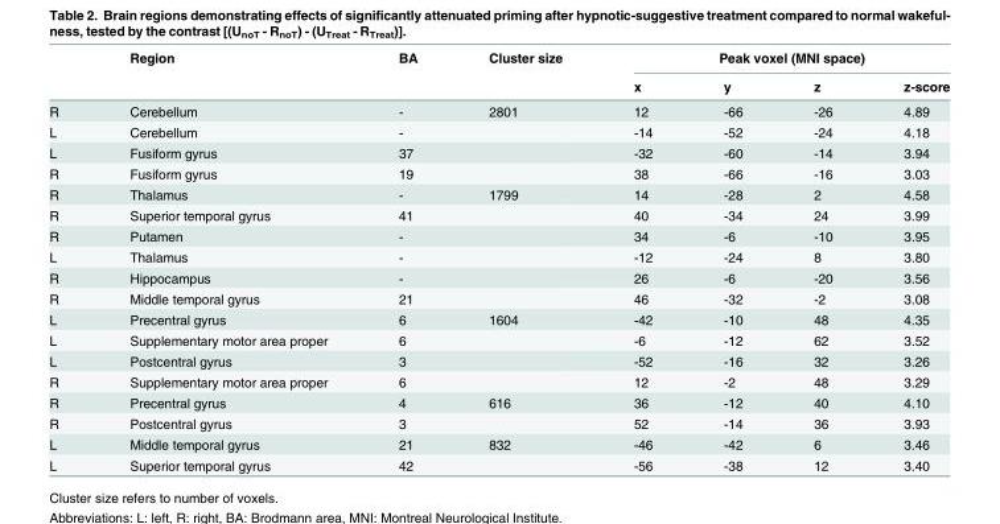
<table><thead><tr><td rowspan="2"></td><td rowspan="2">Region</td><td rowspan="2">BA</td><td rowspan="2">Cluster size</td><td colspan="4">Peak voxel (MNI space)</td></tr><tr><td>x</td><td>y</td><td>z</td><td>z-score</td></tr></thead><tbody><tr><td>R</td><td>Cerebellum</td><td>-</td><td>2801</td><td>12</td><td>-66</td><td>-26</td><td>4.89</td></tr><tr><td>L</td><td>Cerebellum</td><td>-</td><td></td><td>-14</td><td>-52</td><td>-24</td><td>4.18</td></tr><tr><td>L</td><td>Fusiform gyrus</td><td>37</td><td></td><td>-32</td><td>-60</td><td>-14</td><td>3.94</td></tr><tr><td>R</td><td>Fusiform gyrus</td><td>19</td><td></td><td>38</td><td>-66</td><td>-16</td><td>3.03</td></tr><tr><td>R</td><td>Thalamus</td><td>-</td><td>1799</td><td>14</td><td>-28</td><td>2</td><td>4.58</td></tr><tr><td>R</td><td>Superior temporal gyrus</td><td>41</td><td></td><td>40</td><td>-34</td><td>24</td><td>3.99</td></tr><tr><td>R</td><td>Putamen</td><td>-</td><td></td><td>34</td><td>-6</td><td>-10</td><td>3.95</td></tr><tr><td>L</td><td>Thalamus</td><td>-</td><td></td><td>-12</td><td>-24</td><td>8</td><td>3.80</td></tr><tr><td>R</td><td>Hippocampus</td><td>-</td><td></td><td>26</td><td>-6</td><td>-20</td><td>3.56</td></tr><tr><td>R</td><td>Middle temporal gyrus</td><td>21</td><td></td><td>46</td><td>-32</td><td>-2</td><td>3.08</td></tr><tr><td>L</td><td>Precentral gyrus</td><td>6</td><td>1604</td><td>-42</td><td>-10</td><td>48</td><td>4.35</td></tr><tr><td>L</td><td>Supplementary motor area proper</td><td>6</td><td></td><td>-6</td><td>-12</td><td>62</td><td>3.52</td></tr><tr><td>L</td><td>Postcentral gyrus</td><td>3</td><td></td><td>-52</td><td>-16</td><td>32</td><td>3.26</td></tr><tr><td>R</td><td>Supplementary motor area proper</td><td>6</td><td></td><td>12</td><td>-2</td><td>48</td><td>3.29</td></tr><tr><td>R</td><td>Precentral gyrus</td><td>4</td><td>616</td><td>36</td><td>-12</td><td>40</td><td>4.10</td></tr><tr><td>R</td><td>Postcentral gyrus</td><td>3</td><td></td><td>52</td><td>-14</td><td>36</td><td>3.93</td></tr><tr><td>L</td><td>Middle temporal gyrus</td><td>21</td><td>832</td><td>-46</td><td>-42</td><td>6</td><td>3.46</td></tr><tr><td>L</td><td>Superior temporal gyrus</td><td>42</td><td></td><td>-56</td><td>-38</td><td>12</td><td>3.40</td></tr></tbody></table>